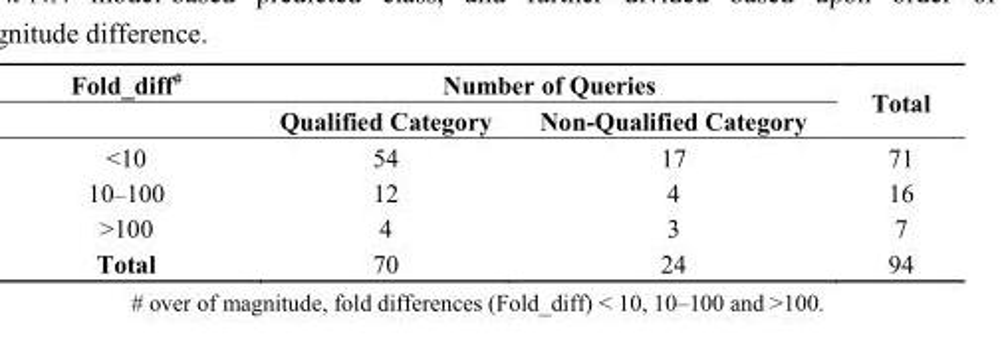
<table><thead><tr><td rowspan="2">Fold_diff<sup>#</sup></td><td colspan="2">Number of Queries</td><td rowspan="2">Total</td></tr><tr><td>Qualified Category</td><td>Non-Qualified Category</td></tr></thead><tbody><tr><td>&lt;10</td><td>54</td><td>17</td><td>71</td></tr><tr><td>10–100</td><td>12</td><td>4</td><td>16</td></tr><tr><td>&gt;100</td><td>4</td><td>3</td><td>7</td></tr><tr><td>Total</td><td>70</td><td>24</td><td>94</td></tr></tbody></table>